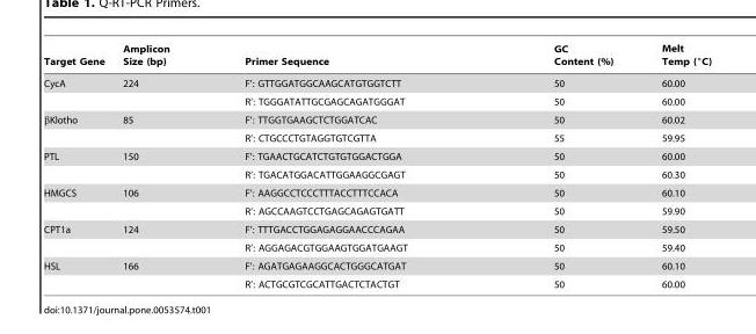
<table><thead><tr><td>Target Gene</td><td>Amplicon Size (bp)</td><td>Primer Sequence</td><td>GC Content (%)</td><td>Melt Temp (°C)</td></tr></thead><tbody><tr><td rowspan="2">CycA</td><td>224</td><td>F’: GTTGGATGGCAAGCATGTGGTCTT</td><td>50</td><td>60.00</td></tr><tr><td></td><td>R’: TGGGATATTGCGAGCAGATGGGAT</td><td>50</td><td>60.00</td></tr><tr><td rowspan="2">βKlotho</td><td>85</td><td>F’: TTGGTGAAGCTCTGGATCAC</td><td>50</td><td>60.02</td></tr><tr><td></td><td>R’: CTGCCCTGTAGGTGTCGTTA</td><td>55</td><td>59.95</td></tr><tr><td rowspan="2">PTL</td><td>150</td><td>F’: TGAACTGCATCTGTGTGGACTGGA</td><td>50</td><td>60.00</td></tr><tr><td></td><td>R’: TGACATGGACATTGGAAGGCGAGT</td><td>50</td><td>60.30</td></tr><tr><td rowspan="2">HMGCS</td><td>106</td><td>F’: AAGGCCTCCCTTTACCTTTCCACA</td><td>50</td><td>60.10</td></tr><tr><td></td><td>R’: AGCCAAGTCCTGAGCAGAGTGATT</td><td>50</td><td>59.90</td></tr><tr><td rowspan="2">CPT1a</td><td>124</td><td>F’: TTTGACCTGGAGAGGAACCCAGAA</td><td>50</td><td>59.50</td></tr><tr><td></td><td>R’: AGGAGACGTGGAAGTGGATGAAGT</td><td>50</td><td>59.40</td></tr><tr><td rowspan="2">HSL</td><td>166</td><td>F’: AGATGAGAAGGCACTGGGCATGAT</td><td>50</td><td>60.10</td></tr><tr><td></td><td>R’: ACTGCGTCGCATTGACTCTACTGT</td><td>50</td><td>60.00</td></tr></tbody></table>